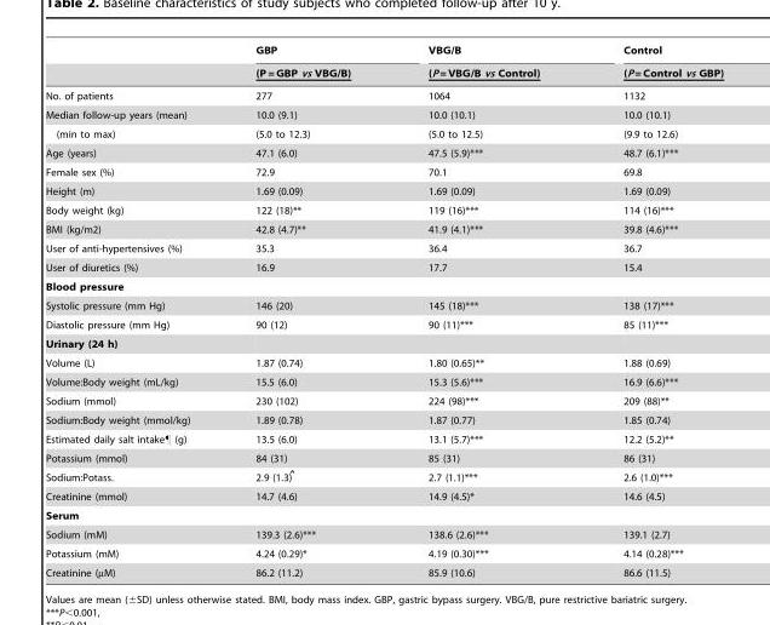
<table><thead><tr><td rowspan="2"></td><td rowspan="2">GBP (P = GBP vs VBG/B)</td><td rowspan="2">VBG/B (P = VBG/B vs Control)</td><td rowspan="2">Control (P = Control vs GBP)</td></tr><tr></tr></thead><tbody><tr><td>No. of patients</td><td>277</td><td>1064</td><td>1132</td></tr><tr><td>Median follow-up years (mean)</td><td>10.0 (9.1)</td><td>10.0 (10.1)</td><td>10.0 (10.1)</td></tr><tr><td>(min to max)</td><td>(5.0 to 12.3)</td><td>(5.0 to 12.5)</td><td>(9.9 to 12.6)</td></tr><tr><td>Age (years)</td><td>47.1 (6.0)</td><td>47.5 (5.9)***</td><td>48.7 (6.1)***</td></tr><tr><td>Female sex (%)</td><td>72.9</td><td>70.1</td><td>69.8</td></tr><tr><td>Height (m)</td><td>1.69 (0.09)</td><td>1.69 (0.09)</td><td>1.69 (0.09)</td></tr><tr><td>Body weight (kg)</td><td>122 (18)**</td><td>119 (16)***</td><td>114 (16)***</td></tr><tr><td>BMI (kg/m2)</td><td>42.8 (4.7)**</td><td>41.9 (4.1)***</td><td>39.8 (4.6)***</td></tr><tr><td>User of anti-hypertensives (%)</td><td>35.3</td><td>36.4</td><td>36.7</td></tr><tr><td>User of diuretics (%)</td><td>16.9</td><td>17.7</td><td>15.4</td></tr><tr><td colspan="4">Blood pressure</td></tr><tr><td>Systolic pressure (mm Hg)</td><td>146 (20)</td><td>145 (18)***</td><td>138 (17)***</td></tr><tr><td>Diastolic pressure (mm Hg)</td><td>90 (12)</td><td>90 (11)***</td><td>85 (11)***</td></tr><tr><td colspan="4">Urinary (24 h)</td></tr><tr><td>Volume (L)</td><td>1.87 (0.74)</td><td>1.80 (0.65)**</td><td>1.88 (0.69)</td></tr><tr><td>Volume:Body weight (mL/kg)</td><td>15.5 (6.0)</td><td>15.3 (5.6)***</td><td>16.9 (6.6)***</td></tr><tr><td>Sodium (mmol)</td><td>230 (102)</td><td>224 (98)***</td><td>209 (88)**</td></tr><tr><td>Sodium:Body weight (mmol/kg)</td><td>1.89 (0.78)</td><td>1.87 (0.77)</td><td>1.85 (0.74)</td></tr><tr><td>Estimated daily salt intake¶ (g)</td><td>13.5 (6.0)</td><td>13.1 (5.7)***</td><td>12.2 (5.2)**</td></tr><tr><td>Potassium (mmol)</td><td>84 (31)</td><td>85 (31)</td><td>86 (31)</td></tr><tr><td>Sodium:Potass.</td><td>2.9 (1.3)ˆ</td><td>2.7 (1.1)***</td><td>2.6 (1.0)***</td></tr><tr><td>Creatinine (mmol)</td><td>14.7 (4.6)</td><td>14.9 (4.5)*</td><td>14.6 (4.5)</td></tr><tr><td colspan="4">Serum</td></tr><tr><td>Sodium (mM)</td><td>139.3 (2.6)***</td><td>138.6 (2.6)***</td><td>139.1 (2.7)</td></tr><tr><td>Potassium (mM)</td><td>4.24 (0.29)*</td><td>4.19 (0.30)***</td><td>4.14 (0.28)***</td></tr><tr><td>Creatinine (µM)</td><td>86.2 (11.2)</td><td>85.9 (10.6)</td><td>86.6 (11.5)</td></tr></tbody></table>